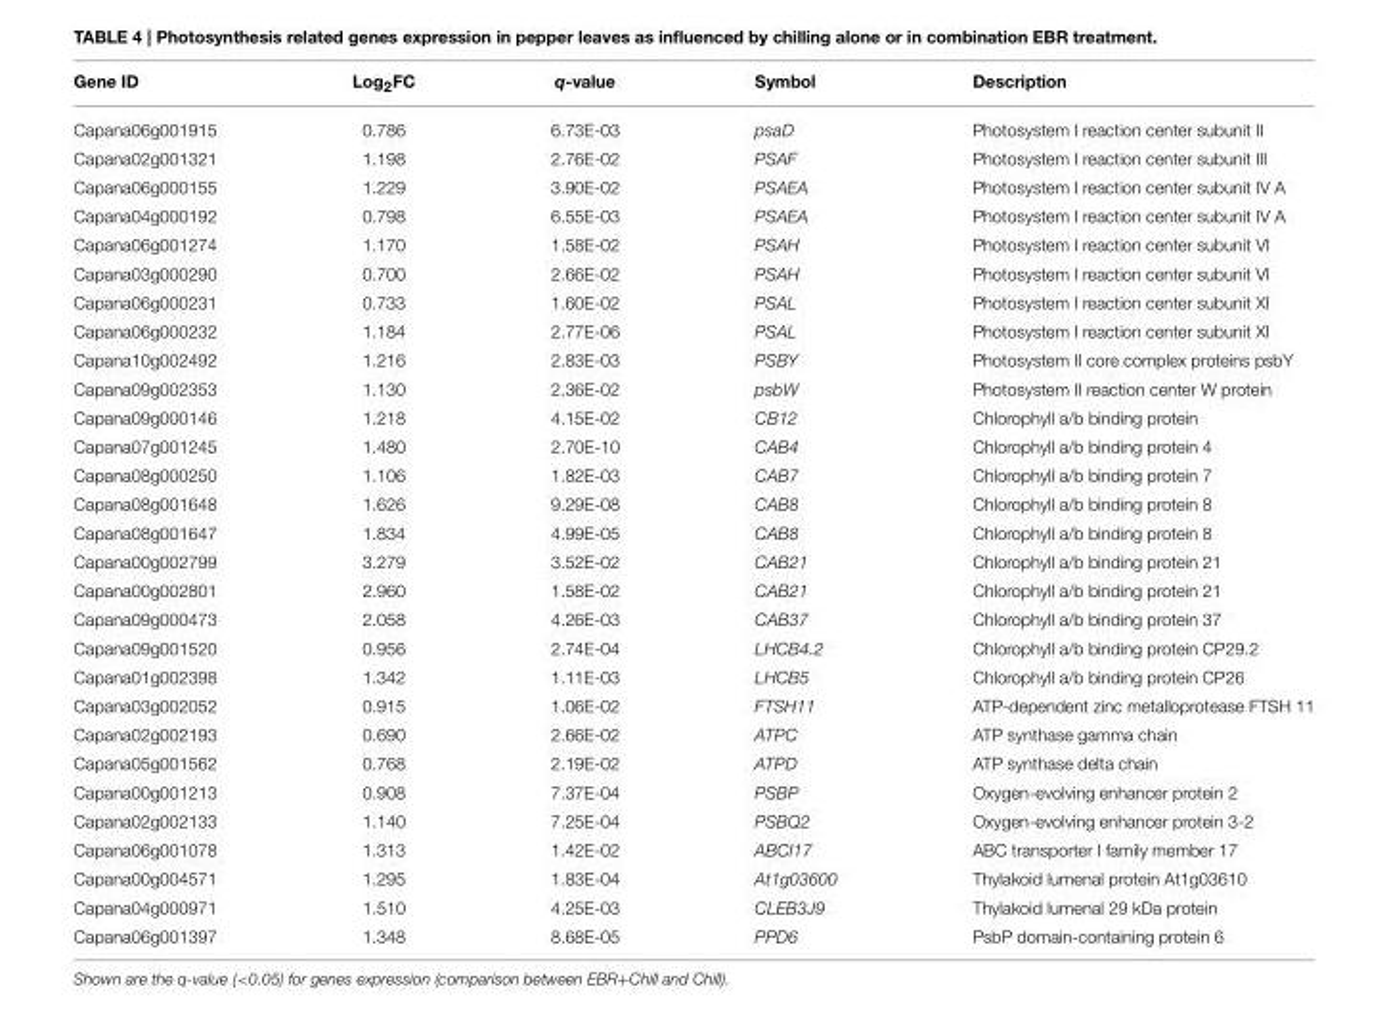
<table><thead><tr><td>Gene ID</td><td>Log<sub>2</sub>FC</td><td>q-value</td><td>Symbol</td><td>Description</td></tr></thead><tbody><tr><td>Capana06g001915</td><td>0.786</td><td>6.73E-03</td><td>psaD</td><td>Photosystem I reaction center subunit II</td></tr><tr><td>Capana02g001321</td><td>1.198</td><td>2.76E-02</td><td>PSAF</td><td>Photosystem I reaction center subunit III</td></tr><tr><td>Capana06g000155</td><td>1.229</td><td>3.90E-02</td><td>PSAEA</td><td>Photosystem I reaction center subunit IV A</td></tr><tr><td>Capana04g000192</td><td>0.798</td><td>6.55E-03</td><td>PSAEA</td><td>Photosystem I reaction center subunit IV A</td></tr><tr><td>Capana06g001274</td><td>1.170</td><td>1.58E-02</td><td>PSAH</td><td>Photosystem I reaction center subunit VI</td></tr><tr><td>Capana03g000290</td><td>0.700</td><td>2.66E-02</td><td>PSAH</td><td>Photosystem I reaction center subunit VI</td></tr><tr><td>Capana06g000231</td><td>0.733</td><td>1.60E-02</td><td>PSAL</td><td>Photosystem I reaction center subunit XI</td></tr><tr><td>Capana06g000232</td><td>1.184</td><td>2.77E-06</td><td>PSAL</td><td>Photosystem I reaction center subunit XI</td></tr><tr><td>Capana10g002492</td><td>1.216</td><td>2.83E-03</td><td>PSBY</td><td>Photosystem II core complex proteins psbY</td></tr><tr><td>Capana09g002353</td><td>1.130</td><td>2.36E-02</td><td>psbW</td><td>Photosystem II reaction center W protein</td></tr><tr><td>Capana09g000146</td><td>1.218</td><td>4.15E-02</td><td>CB12</td><td>Chlorophyll a/b binding protein</td></tr><tr><td>Capana07g001245</td><td>1.480</td><td>2.70E-10</td><td>CAB4</td><td>Chlorophyll a/b binding protein 4</td></tr><tr><td>Capana08g000250</td><td>1.106</td><td>1.82E-03</td><td>CAB7</td><td>Chlorophyll a/b binding protein 7</td></tr><tr><td>Capana08g001648</td><td>1.626</td><td>9.29E-08</td><td>CAB8</td><td>Chlorophyll a/b binding protein 8</td></tr><tr><td>Capana08g001647</td><td>1.834</td><td>4.99E-05</td><td>CAB8</td><td>Chlorophyll a/b binding protein 8</td></tr><tr><td>Capana00g002799</td><td>3.279</td><td>3.52E-02</td><td>CAB21</td><td>Chlorophyll a/b binding protein 21</td></tr><tr><td>Capana00g002801</td><td>2.960</td><td>1.58E-02</td><td>CAB21</td><td>Chlorophyll a/b binding protein 21</td></tr><tr><td>Capana09g000473</td><td>2.058</td><td>4.26E-03</td><td>CAB37</td><td>Chlorophyll a/b binding protein 37</td></tr><tr><td>Capana09g001520</td><td>0.956</td><td>2.74E-04</td><td>LHCB4.2</td><td>Chlorophyll a/b binding protein CP29.2</td></tr><tr><td>Capana01g002398</td><td>1.342</td><td>1.11E-03</td><td>LHCB5</td><td>Chlorophyll a/b binding protein CP26</td></tr><tr><td>Capana03g002052</td><td>0.915</td><td>1.06E-02</td><td>FTSH11</td><td>ATP-dependent zinc metalloprotease FTSH 11</td></tr><tr><td>Capana02g002193</td><td>0.690</td><td>2.66E-02</td><td>ATPC</td><td>ATP synthase gamma chain</td></tr><tr><td>Capana05g001562</td><td>0.768</td><td>2.19E-02</td><td>ATPD</td><td>ATP synthase delta chain</td></tr><tr><td>Capana00g001213</td><td>0.908</td><td>7.37E-04</td><td>PSBP</td><td>Oxygen-evolving enhancer protein 2</td></tr><tr><td>Capana02g002133</td><td>1.140</td><td>7.25E-04</td><td>PSBQ2</td><td>Oxygen-evolving enhancer protein 3-2</td></tr><tr><td>Capana06g001078</td><td>1.313</td><td>1.42E-02</td><td>ABCI17</td><td>ABC transporter I family member 17</td></tr><tr><td>Capana00g004571</td><td>1.295</td><td>1.83E-04</td><td>At1g03600</td><td>Thylakoid lumenal protein At1g03610</td></tr><tr><td>Capana04g000971</td><td>1.510</td><td>4.25E-03</td><td>CLEB3J9</td><td>Thylakoid lumenal 29 kDa protein</td></tr><tr><td>Capana06g001397</td><td>1.348</td><td>8.68E-05</td><td>PPD6</td><td>PsbP domain-containing protein 6</td></tr></tbody></table>